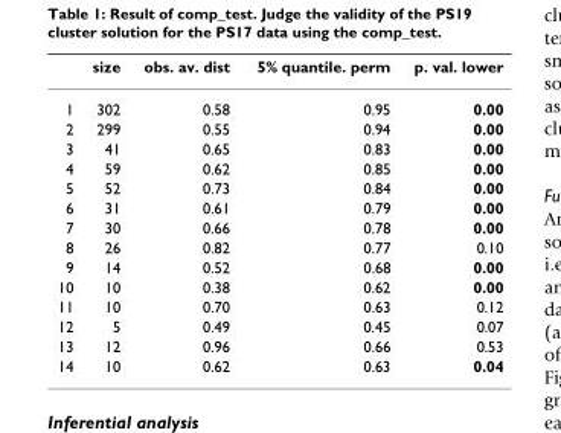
<table><thead><tr><td></td><td>size</td><td>obs. av. dist</td><td>5% quantile. perm</td><td>p. val. lower</td></tr></thead><tbody><tr><td>1</td><td>302</td><td>0.58</td><td>0.95</td><td>0.00</td></tr><tr><td>2</td><td>299</td><td>0.55</td><td>0.94</td><td>0.00</td></tr><tr><td>3</td><td>41</td><td>0.65</td><td>0.83</td><td>0.00</td></tr><tr><td>4</td><td>59</td><td>0.62</td><td>0.85</td><td>0.00</td></tr><tr><td>5</td><td>52</td><td>0.73</td><td>0.84</td><td>0.00</td></tr><tr><td>6</td><td>31</td><td>0.61</td><td>0.79</td><td>0.00</td></tr><tr><td>7</td><td>30</td><td>0.66</td><td>0.78</td><td>0.00</td></tr><tr><td>8</td><td>26</td><td>0.82</td><td>0.77</td><td>0.10</td></tr><tr><td>9</td><td>14</td><td>0.52</td><td>0.68</td><td>0.00</td></tr><tr><td>10</td><td>10</td><td>0.38</td><td>0.62</td><td>0.00</td></tr><tr><td>11</td><td>10</td><td>0.70</td><td>0.63</td><td>0.12</td></tr><tr><td>12</td><td>5</td><td>0.49</td><td>0.45</td><td>0.07</td></tr><tr><td>13</td><td>12</td><td>0.96</td><td>0.66</td><td>0.53</td></tr><tr><td>14</td><td>10</td><td>0.62</td><td>0.63</td><td>0.04</td></tr></tbody></table>